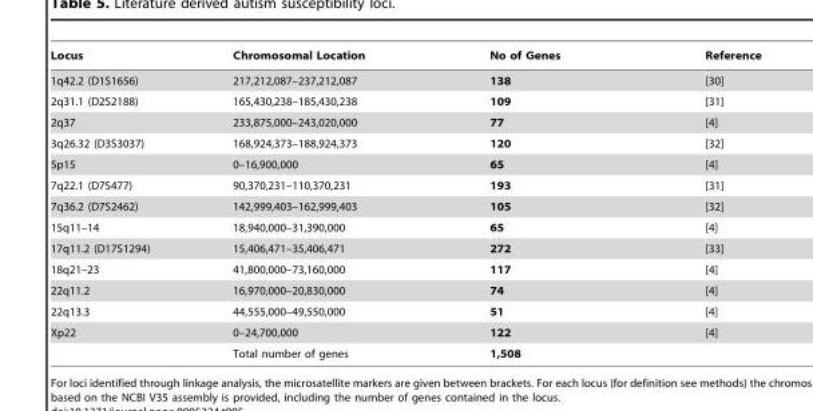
<table><thead><tr><td>Locus</td><td>Chromosomal Location</td><td>No of Genes</td><td>Reference</td></tr></thead><tbody><tr><td>1q42.2 (D1S1656)</td><td>217,212,087–237,212,087</td><td>138</td><td>[30]</td></tr><tr><td>2q31.1 (D2S2188)</td><td>165,430,238–185,430,238</td><td>109</td><td>[31]</td></tr><tr><td>2q37</td><td>233,875,000–243,020,000</td><td>77</td><td>[4]</td></tr><tr><td>3q26.32 (D3S3037)</td><td>168,924,373–188,924,373</td><td>120</td><td>[32]</td></tr><tr><td>5p15</td><td>0–16,900,000</td><td>65</td><td>[4]</td></tr><tr><td>7q22.1 (D7S477)</td><td>90,370,231–110,370,231</td><td>193</td><td>[31]</td></tr><tr><td>7q36.2 (D7S2462)</td><td>142,999,403–162,999,403</td><td>105</td><td>[32]</td></tr><tr><td>15q11–14</td><td>18,940,000–31,390,000</td><td>65</td><td>[4]</td></tr><tr><td>17q11.2 (D17S1294)</td><td>15,406,471–35,406,471</td><td>272</td><td>[33]</td></tr><tr><td>18q21–23</td><td>41,800,000–73,160,000</td><td>117</td><td>[4]</td></tr><tr><td>22q11.2</td><td>16,970,000–20,830,000</td><td>74</td><td>[4]</td></tr><tr><td>22q13.3</td><td>44,555,000–49,550,000</td><td>51</td><td>[4]</td></tr><tr><td rowspan="2">Xp22</td><td>0–24,700,000</td><td>122</td><td>[4]</td></tr><tr><td>Total number of genes</td><td>1,508</td><td></td></tr></tbody></table>